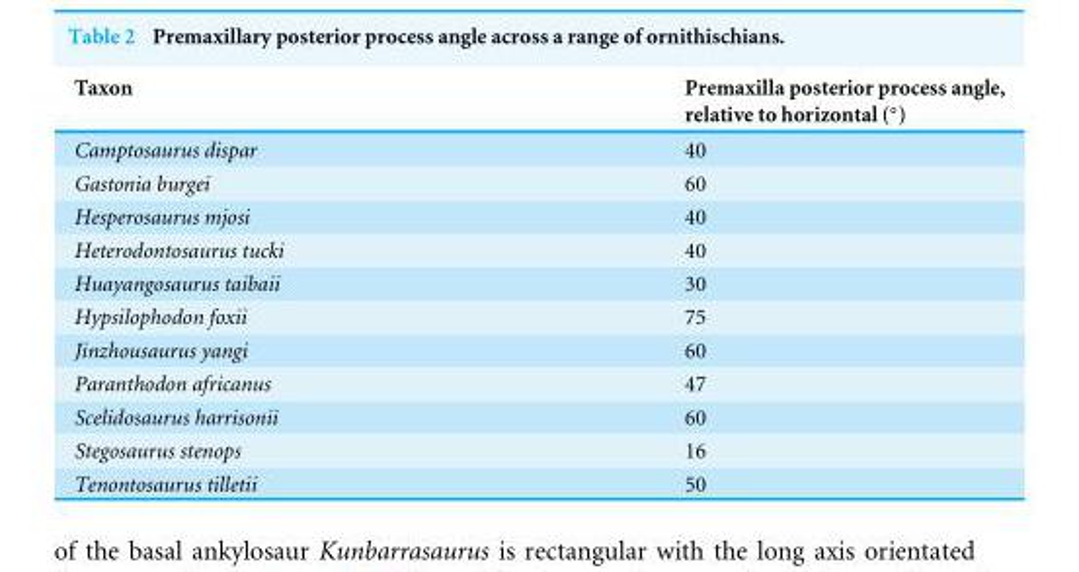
<table><thead><tr><td>Taxon</td><td>Premaxilla posterior process angle, relative to horizontal (◦)</td></tr></thead><tbody><tr><td>Camptosaurus dispar</td><td>40</td></tr><tr><td>Gastonia burgei</td><td>60</td></tr><tr><td>Hesperosaurus mjosi</td><td>40</td></tr><tr><td>Heterodontosaurus tucki</td><td>40</td></tr><tr><td>Huayangosaurus taibaii</td><td>30</td></tr><tr><td>Hypsilophodon foxii</td><td>75</td></tr><tr><td>Jinzhousaurus yangi</td><td>60</td></tr><tr><td>Paranthodon africanus</td><td>47</td></tr><tr><td>Scelidosaurus harrisonii</td><td>60</td></tr><tr><td>Stegosaurus stenops</td><td>16</td></tr><tr><td>Tenontosaurus tilletii</td><td>50</td></tr></tbody></table>